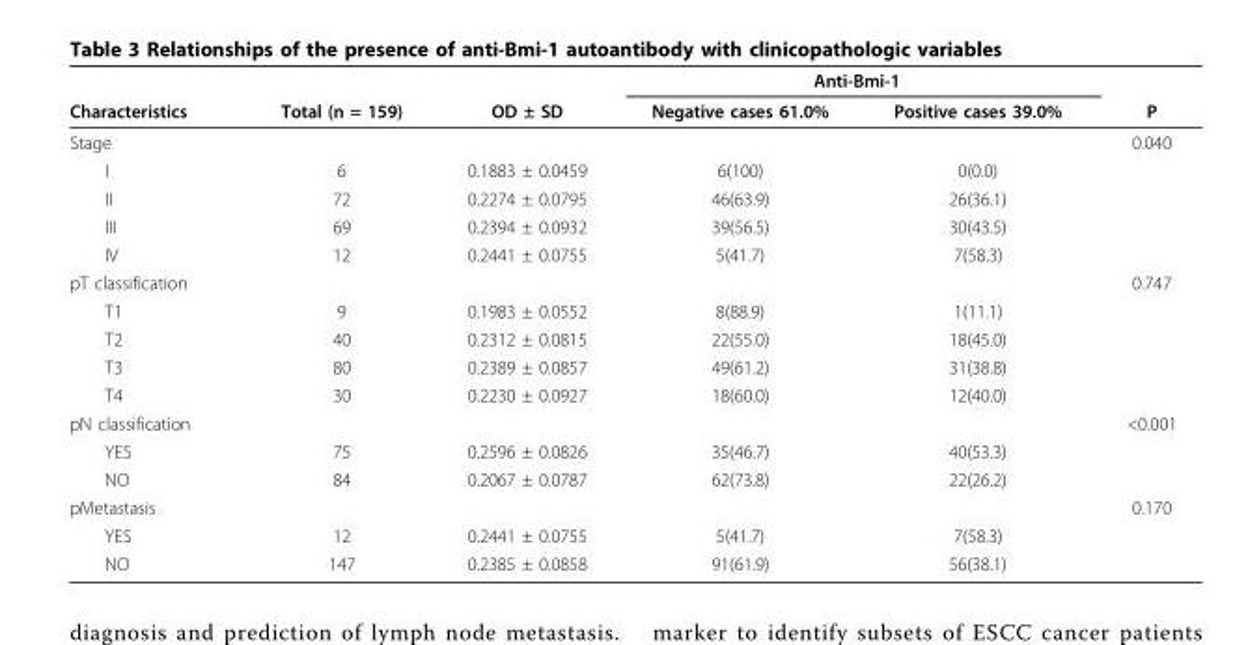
<table><thead><tr><td rowspan="2">Characteristics</td><td rowspan="2">Total (n = 159)</td><td rowspan="2">OD ± SD</td><td colspan="2">Anti-Bmi-1</td><td rowspan="2">P</td></tr><tr><td>Negative cases 61.0%</td><td>Positive cases 39.0%</td></tr></thead><tbody><tr><td>Stage</td><td></td><td></td><td></td><td></td><td>0.040</td></tr><tr><td>I</td><td>6</td><td>0.1883 ± 0.0459</td><td>6(100)</td><td>0(0.0)</td><td></td></tr><tr><td>II</td><td>72</td><td>0.2274 ± 0.0795</td><td>46(63.9)</td><td>26(36.1)</td><td></td></tr><tr><td>III</td><td>69</td><td>0.2394 ± 0.0932</td><td>39(56.5)</td><td>30(43.5)</td><td></td></tr><tr><td>IV</td><td>12</td><td>0.2441 ± 0.0755</td><td>5(41.7)</td><td>7(58.3)</td><td></td></tr><tr><td>pT classification</td><td></td><td></td><td></td><td></td><td>0.747</td></tr><tr><td>T1</td><td>9</td><td>0.1983 ± 0.0552</td><td>8(88.9)</td><td>1(11.1)</td><td></td></tr><tr><td>T2</td><td>40</td><td>0.2312 ± 0.0815</td><td>22(55.0)</td><td>18(45.0)</td><td></td></tr><tr><td>T3</td><td>80</td><td>0.2389 ± 0.0857</td><td>49(61.2)</td><td>31(38.8)</td><td></td></tr><tr><td>T4</td><td>30</td><td>0.2230 ± 0.0927</td><td>18(60.0)</td><td>12(40.0)</td><td></td></tr><tr><td>pN classification</td><td></td><td></td><td></td><td></td><td>&lt;0.001</td></tr><tr><td>YES</td><td>75</td><td>0.2596 ± 0.0826</td><td>35(46.7)</td><td>40(53.3)</td><td></td></tr><tr><td>NO</td><td>84</td><td>0.2067 ± 0.0787</td><td>62(73.8)</td><td>22(26.2)</td><td></td></tr><tr><td>pMetastasis</td><td></td><td></td><td></td><td></td><td>0.170</td></tr><tr><td>YES</td><td>12</td><td>0.2441 ± 0.0755</td><td>5(41.7)</td><td>7(58.3)</td><td></td></tr><tr><td>NO</td><td>147</td><td>0.2385 ± 0.0858</td><td>91(61.9)</td><td>56(38.1)</td><td></td></tr></tbody></table>